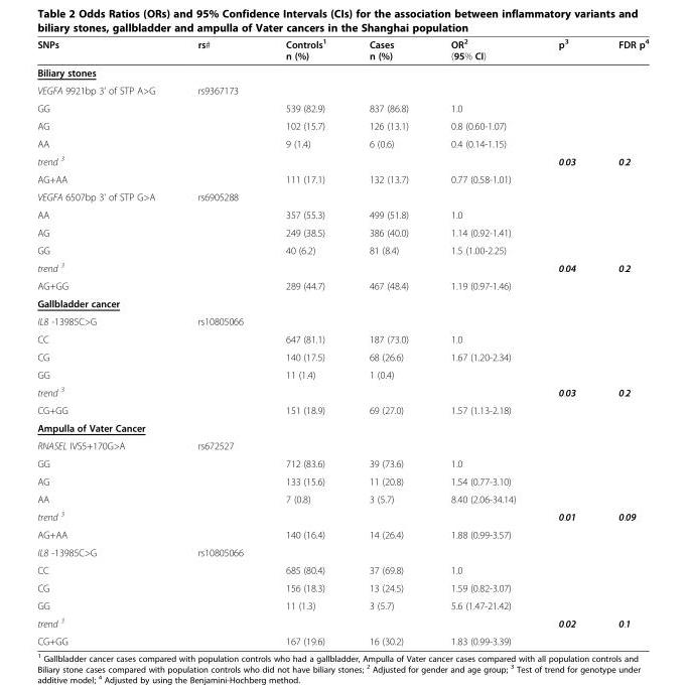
<table><thead><tr><td>SNPs</td><td>rs#</td><td>Controls<sup>1</sup> n (%)</td><td>Cases n (%)</td><td>OR<sup>2</sup> (95% CI)</td><td>p<sup>3</sup></td><td>FDR p<sup>4</sup></td></tr></thead><tbody><tr><td colspan="7">Biliary stones</td></tr><tr><td>VEGFA 9921bp 3&#x27; of STP A&gt;G</td><td>rs9367173</td><td></td><td></td><td></td><td></td><td></td></tr><tr><td>GG</td><td></td><td>539 (82.9)</td><td>837 (86.8)</td><td>1.0</td><td></td><td></td></tr><tr><td>AG</td><td></td><td>102 (15.7)</td><td>126 (13.1)</td><td>0.8 (0.60-1.07)</td><td></td><td></td></tr><tr><td>AA</td><td></td><td>9 (1.4)</td><td>6 (0.6)</td><td>0.4 (0.14-1.15)</td><td></td><td></td></tr><tr><td>trend <sup>3</sup></td><td></td><td></td><td></td><td></td><td>0.03</td><td>0.2</td></tr><tr><td>AG+AA</td><td></td><td>111 (17.1)</td><td>132 (13.7)</td><td>0.77 (0.58-1.01)</td><td></td><td></td></tr><tr><td>VEGFA 6507bp 3&#x27; of STP G&gt;A</td><td>rs6905288</td><td></td><td></td><td></td><td></td><td></td></tr><tr><td>AA</td><td></td><td>357 (55.3)</td><td>499 (51.8)</td><td>1.0</td><td></td><td></td></tr><tr><td>AG</td><td></td><td>249 (38.5)</td><td>386 (40.0)</td><td>1.14 (0.92-1.41)</td><td></td><td></td></tr><tr><td>GG</td><td></td><td>40 (6.2)</td><td>81 (8.4)</td><td>1.5 (1.00-2.25)</td><td></td><td></td></tr><tr><td>trend <sup>3</sup></td><td></td><td></td><td></td><td></td><td>0.04</td><td>0.2</td></tr><tr><td>AG+GG</td><td></td><td>289 (44.7)</td><td>467 (48.4)</td><td>1.19 (0.97-1.46)</td><td></td><td></td></tr><tr><td colspan="7">Gallbladder cancer</td></tr><tr><td>IL8 -13985C&gt;G</td><td>rs10805066</td><td></td><td></td><td></td><td></td><td></td></tr><tr><td>CC</td><td></td><td>647 (81.1)</td><td>187 (73.0)</td><td>1.0</td><td></td><td></td></tr><tr><td>CG</td><td></td><td>140 (17.5)</td><td>68 (26.6)</td><td>1.67 (1.20-2.34)</td><td></td><td></td></tr><tr><td>GG</td><td></td><td>11 (1.4)</td><td>1 (0.4)</td><td></td><td></td><td></td></tr><tr><td>trend <sup>3</sup></td><td></td><td></td><td></td><td></td><td>0.03</td><td>0.2</td></tr><tr><td>CG+GG</td><td></td><td>151 (18.9)</td><td>69 (27.0)</td><td>1.57 (1.13-2.18)</td><td></td><td></td></tr><tr><td colspan="7">Ampulla of Vater Cancer</td></tr><tr><td>RNASEL IVS5+170G&gt;A</td><td>rs672527</td><td></td><td></td><td></td><td></td><td></td></tr><tr><td>GG</td><td></td><td>712 (83.6)</td><td>39 (73.6)</td><td>1.0</td><td></td><td></td></tr><tr><td>AG</td><td></td><td>133 (15.6)</td><td>11 (20.8)</td><td>1.54 (0.77-3.10)</td><td></td><td></td></tr><tr><td>AA</td><td></td><td>7 (0.8)</td><td>3 (5.7)</td><td>8.40 (2.06-34.14)</td><td></td><td></td></tr><tr><td>trend <sup>3</sup></td><td></td><td></td><td></td><td></td><td>0.01</td><td>0.09</td></tr><tr><td>AG+AA</td><td></td><td>140 (16.4)</td><td>14 (26.4)</td><td>1.88 (0.99-3.57)</td><td></td><td></td></tr><tr><td>IL8 -13985C&gt;G</td><td>rs10805066</td><td></td><td></td><td></td><td></td><td></td></tr><tr><td>CC</td><td></td><td>685 (80.4)</td><td>37 (69.8)</td><td>1.0</td><td></td><td></td></tr><tr><td>CG</td><td></td><td>156 (18.3)</td><td>13 (24.5)</td><td>1.59 (0.82-3.07)</td><td></td><td></td></tr><tr><td>GG</td><td></td><td>11 (1.3)</td><td>3 (5.7)</td><td>5.6 (1.47-21.42)</td><td></td><td></td></tr><tr><td>trend <sup>3</sup></td><td></td><td></td><td></td><td></td><td>0.02</td><td>0.1</td></tr><tr><td>CG+GG</td><td></td><td>167 (19.6)</td><td>16 (30.2)</td><td>1.83 (0.99-3.39)</td><td></td><td></td></tr></tbody></table>